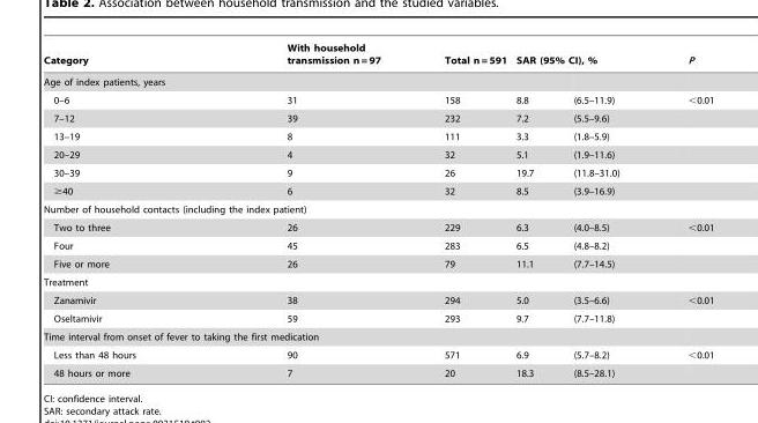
<table><thead><tr><td>Category</td><td>With household transmission n = 97</td><td rowspan="2">Total n = 591</td><td colspan="2">SAR (95% CI), %</td><td rowspan="2">P</td></tr><tr><td colspan="2">Age of index patients, years</td><td></td><td></td></tr></thead><tbody><tr><td>0–6</td><td>31</td><td>158</td><td>8.8</td><td>(6.5–11.9)</td><td>&lt;0.01</td></tr><tr><td>7–12</td><td>39</td><td>232</td><td>7.2</td><td>(5.5–9.6)</td><td></td></tr><tr><td>13–19</td><td>8</td><td>111</td><td>3.3</td><td>(1.8–5.9)</td><td></td></tr><tr><td>20–29</td><td>4</td><td>32</td><td>5.1</td><td>(1.9–11.6)</td><td></td></tr><tr><td>30–39</td><td>9</td><td>26</td><td>19.7</td><td>(11.8–31.0)</td><td></td></tr><tr><td>≥40</td><td>6</td><td>32</td><td>8.5</td><td>(3.9–16.9)</td><td></td></tr><tr><td colspan="6">Number of household contacts (including the index patient)</td></tr><tr><td>Two to three</td><td>26</td><td>229</td><td>6.3</td><td>(4.0–8.5)</td><td>&lt;0.01</td></tr><tr><td>Four</td><td>45</td><td>283</td><td>6.5</td><td>(4.8–8.2)</td><td></td></tr><tr><td>Five or more</td><td>26</td><td>79</td><td>11.1</td><td>(7.7–14.5)</td><td></td></tr><tr><td colspan="6">Treatment</td></tr><tr><td>Zanamivir</td><td>38</td><td>294</td><td>5.0</td><td>(3.5–6.6)</td><td>&lt;0.01</td></tr><tr><td>Oseltamivir</td><td>59</td><td>293</td><td>9.7</td><td>(7.7–11.8)</td><td></td></tr><tr><td colspan="6">Time interval from onset of fever to taking the first medication</td></tr><tr><td>Less than 48 hours</td><td>90</td><td>571</td><td>6.9</td><td>(5.7–8.2)</td><td>&lt;0.01</td></tr><tr><td>48 hours or more</td><td>7</td><td>20</td><td>18.3</td><td>(8.5–28.1)</td><td></td></tr></tbody></table>